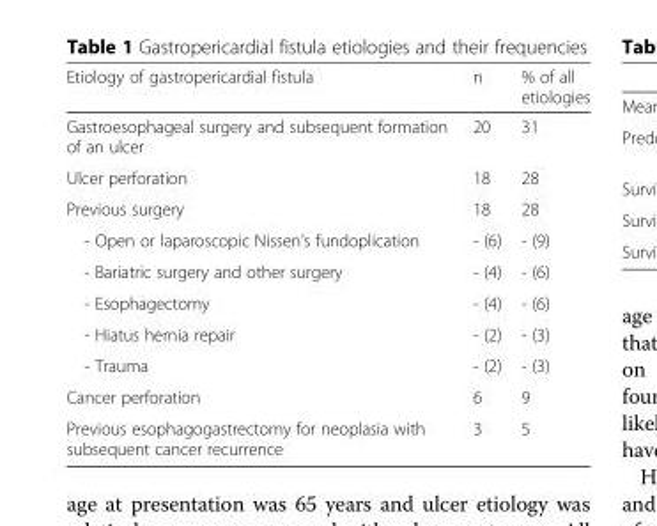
<table><thead><tr><td>Etiology of gastropericardial fistula</td><td>n</td><td>% of all etiologies</td></tr></thead><tbody><tr><td>Gastroesophageal surgery and subsequent formation of an ulcer</td><td>20</td><td>31</td></tr><tr><td>Ulcer perforation</td><td>18</td><td>28</td></tr><tr><td>Previous surgery</td><td>18</td><td>28</td></tr><tr><td>- Open or laparoscopic Nissen’s fundoplication</td><td>- (6)</td><td>- (9)</td></tr><tr><td>- Bariatric surgery and other surgery</td><td>- (4)</td><td>- (6)</td></tr><tr><td>- Esophagectomy</td><td>- (4)</td><td>- (6)</td></tr><tr><td>- Hiatus hernia repair</td><td>- (2)</td><td>- (3)</td></tr><tr><td>- Trauma</td><td>- (2)</td><td>- (3)</td></tr><tr><td>Cancer perforation</td><td>6</td><td>9</td></tr><tr><td>Previous esophagogastrectomy for neoplasia with subsequent cancer recurrence</td><td>3</td><td>5</td></tr></tbody></table>